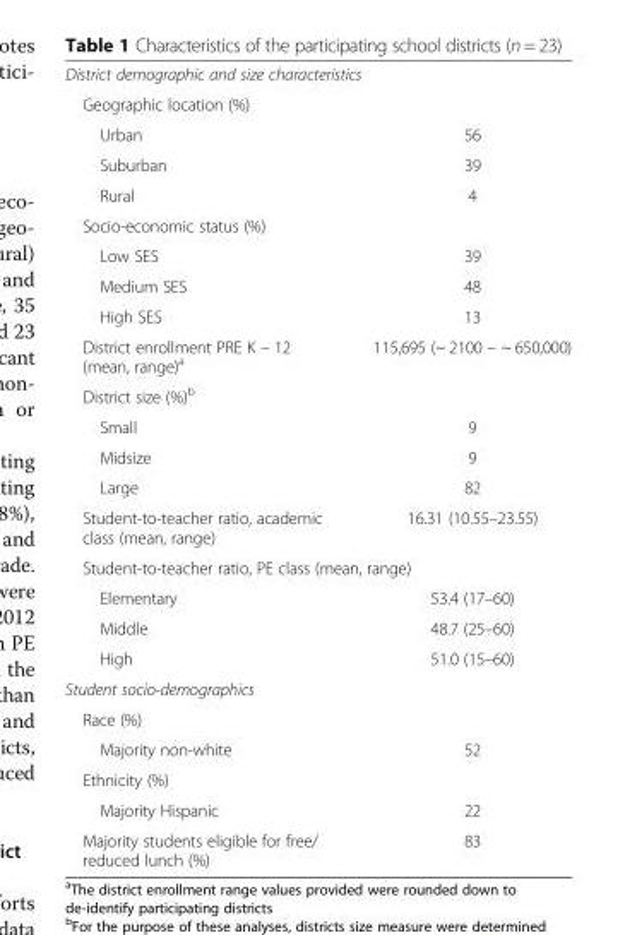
<table><tbody><tr><td colspan="2">District demographic and size characteristics</td></tr><tr><td colspan="2">Geographic location (%)</td></tr><tr><td>Urban</td><td>56</td></tr><tr><td>Suburban</td><td>39</td></tr><tr><td>Rural</td><td>4</td></tr><tr><td colspan="2">Socio-economic status (%)</td></tr><tr><td>Low SES</td><td>39</td></tr><tr><td>Medium SES</td><td>48</td></tr><tr><td>High SES</td><td>13</td></tr><tr><td>District enrollment PRE K – 12 (mean, range)<sup>a</sup></td><td>115,695 (~ 2100 – ~ 650,000)</td></tr><tr><td colspan="2">District size (%)<sup>b</sup></td></tr><tr><td>Small</td><td>9</td></tr><tr><td>Midsize</td><td>9</td></tr><tr><td>Large</td><td>82</td></tr><tr><td>Student-to-teacher ratio, academic class (mean, range)</td><td>16.31 (10.55–23.55)</td></tr><tr><td colspan="2">Student-to-teacher ratio, PE class (mean, range)</td></tr><tr><td>Elementary</td><td>53.4 (17–60)</td></tr><tr><td>Middle</td><td>48.7 (25–60)</td></tr><tr><td>High</td><td>51.0 (15–60)</td></tr><tr><td colspan="2">Student socio-demographics</td></tr><tr><td colspan="2">Race (%)</td></tr><tr><td>Majority non-white</td><td>52</td></tr><tr><td colspan="2">Ethnicity (%)</td></tr><tr><td>Majority Hispanic</td><td>22</td></tr><tr><td>Majority students eligible for free/ reduced lunch (%)</td><td>83</td></tr></tbody></table>